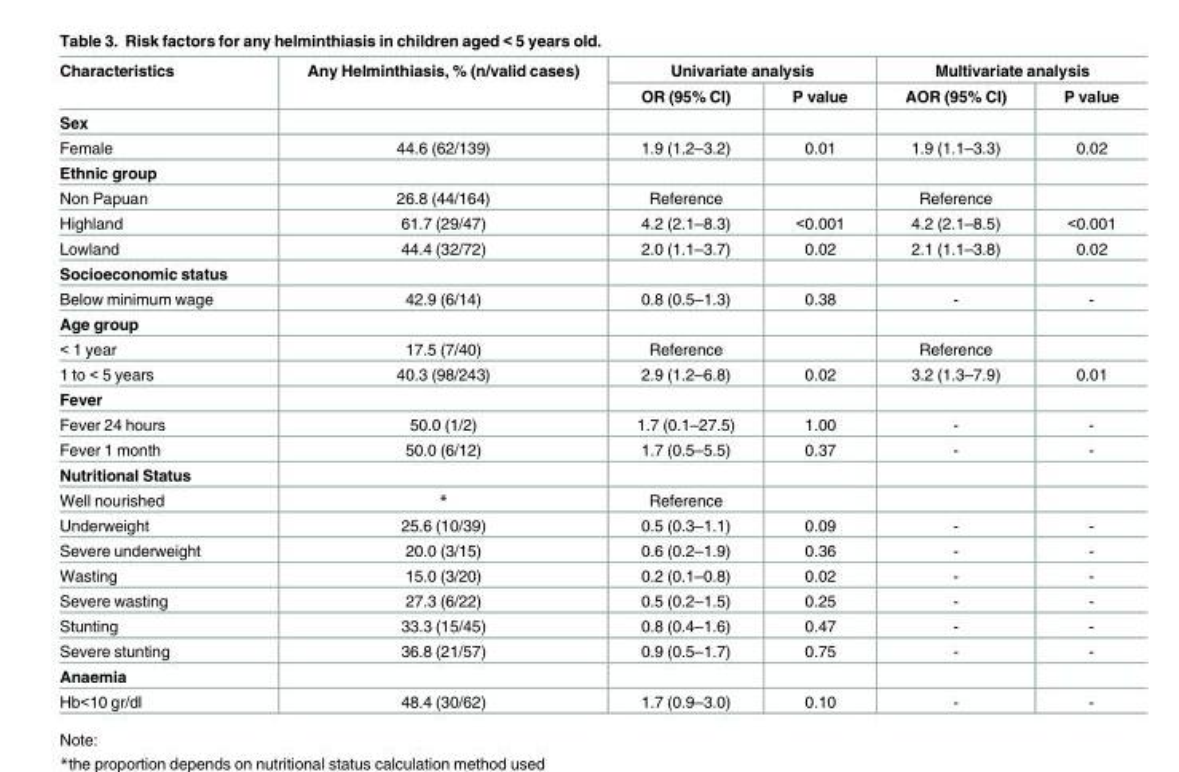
<table><thead><tr><td rowspan="2">Characteristics</td><td rowspan="2">Any Helminthiasis, % (n/valid cases)</td><td colspan="2">Univariate analysis</td><td colspan="2">Multivariate analysis</td></tr><tr><td>OR (95% CI)</td><td>P value</td><td>AOR (95% CI)</td><td>P value</td></tr></thead><tbody><tr><td colspan="6">Sex</td></tr><tr><td>Female</td><td>44.6 (62/139)</td><td>1.9 (1.2–3.2)</td><td>0.01</td><td>1.9 (1.1–3.3)</td><td>0.02</td></tr><tr><td colspan="6">Ethnic group</td></tr><tr><td>Non Papuan</td><td>26.8 (44/164)</td><td>Reference</td><td></td><td>Reference</td><td></td></tr><tr><td>Highland</td><td>61.7 (29/47)</td><td>4.2 (2.1–8.3)</td><td>&lt;0.001</td><td>4.2 (2.1–8.5)</td><td>&lt;0.001</td></tr><tr><td>Lowland</td><td>44.4 (32/72)</td><td>2.0 (1.1–3.7)</td><td>0.02</td><td>2.1 (1.1–3.8)</td><td>0.02</td></tr><tr><td colspan="6">Socioeconomic status</td></tr><tr><td>Below minimum wage</td><td>42.9 (6/14)</td><td>0.8 (0.5–1.3)</td><td>0.38</td><td>-</td><td>-</td></tr><tr><td colspan="6">Age group</td></tr><tr><td>&lt; 1 year</td><td>17.5 (7/40)</td><td>Reference</td><td></td><td>Reference</td><td></td></tr><tr><td>1 to &lt; 5 years</td><td>40.3 (98/243)</td><td>2.9 (1.2–6.8)</td><td>0.02</td><td>3.2 (1.3–7.9)</td><td>0.01</td></tr><tr><td colspan="6">Fever</td></tr><tr><td>Fever 24 hours</td><td>50.0 (1/2)</td><td>1.7 (0.1–27.5)</td><td>1.00</td><td>-</td><td>-</td></tr><tr><td>Fever 1 month</td><td>50.0 (6/12)</td><td>1.7 (0.5–5.5)</td><td>0.37</td><td>-</td><td>-</td></tr><tr><td colspan="6">Nutritional Status</td></tr><tr><td>Well nourished</td><td>*</td><td>Reference</td><td></td><td></td><td></td></tr><tr><td>Underweight</td><td>25.6 (10/39)</td><td>0.5 (0.3–1.1)</td><td>0.09</td><td>-</td><td>-</td></tr><tr><td>Severe underweight</td><td>20.0 (3/15)</td><td>0.6 (0.2–1.9)</td><td>0.36</td><td>-</td><td>-</td></tr><tr><td>Wasting</td><td>15.0 (3/20)</td><td>0.2 (0.1–0.8)</td><td>0.02</td><td>-</td><td>-</td></tr><tr><td>Severe wasting</td><td>27.3 (6/22)</td><td>0.5 (0.2–1.5)</td><td>0.25</td><td>-</td><td>-</td></tr><tr><td>Stunting</td><td>33.3 (15/45)</td><td>0.8 (0.4–1.6)</td><td>0.47</td><td>-</td><td>-</td></tr><tr><td>Severe stunting</td><td>36.8 (21/57)</td><td>0.9 (0.5–1.7)</td><td>0.75</td><td>-</td><td>-</td></tr><tr><td colspan="6">Anaemia</td></tr><tr><td>Hb&lt;10 gr/dl</td><td>48.4 (30/62)</td><td>1.7 (0.9–3.0)</td><td>0.10</td><td>-</td><td>-</td></tr></tbody></table>